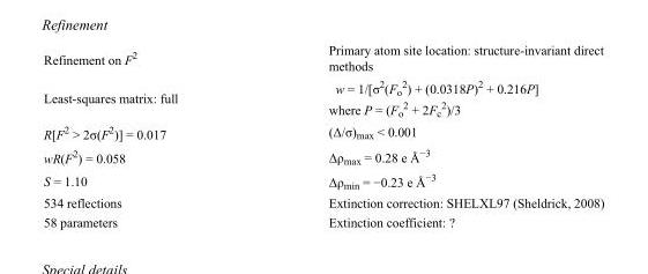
<table><tbody><tr><td>Refinement on F<sup>2</sup></td><td>Primary atom site location: structure-invariant direct methods</td></tr><tr><td>Least-squares matrix: full</td><td>w = 1/[σ<sup>2</sup>(F<sub>o</sub> <sup>2</sup>) + (0.0318P)<sup>2</sup> + 0.216P] where P = (F<sub>o</sub> <sup>2</sup> + 2F<sub>c</sub> <sup>2</sup>)/3</td></tr><tr><td>R[F<sup>2</sup> &gt; 2σ(F<sup>2</sup>)] = 0.017</td><td>(Δ/σ)<sub>max</sub> &lt; 0.001</td></tr><tr><td>wR(F<sup>2</sup>) = 0.058</td><td>Δρ<sub>max</sub> = 0.28 e Å<sup>−3</sup></td></tr><tr><td>S = 1.10</td><td>Δρ<sub>min</sub> = −0.23 e Å<sup>−3</sup></td></tr><tr><td>534 reflections</td><td>Extinction correction: SHELXL97 (Sheldrick, 2008)</td></tr><tr><td>58 parameters</td><td>Extinction coefficient: ?</td></tr></tbody></table>